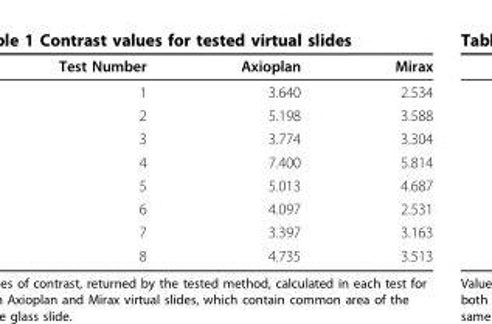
<table><thead><tr><td>Test Number</td><td>Axioplan</td><td>Mirax</td></tr></thead><tbody><tr><td>1</td><td>3.640</td><td>2.534</td></tr><tr><td>2</td><td>5.198</td><td>3.588</td></tr><tr><td>3</td><td>3.774</td><td>3.304</td></tr><tr><td>4</td><td>7.400</td><td>5.814</td></tr><tr><td>5</td><td>5.013</td><td>4.687</td></tr><tr><td>6</td><td>4.097</td><td>2.531</td></tr><tr><td>7</td><td>3.397</td><td>3.163</td></tr><tr><td>8</td><td>4.735</td><td>3.513</td></tr></tbody></table>